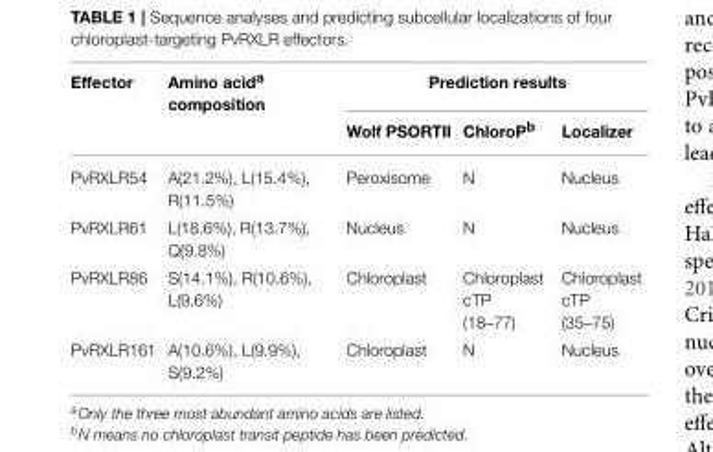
<table><thead><tr><td rowspan="2">Effector</td><td rowspan="2">Amino acid<sup>a</sup> composition</td><td colspan="3">Prediction results</td></tr><tr><td>Wolf PSORTII</td><td>ChloroP<sup>b</sup></td><td>Localizer</td></tr></thead><tbody><tr><td>PvRXLR54</td><td>A(21.2%), L(15.4%), R(11.5%)</td><td>Peroxisome</td><td>N</td><td>Nucleus</td></tr><tr><td>PvRXLR61</td><td>L(18.6%), R(13.7%), Q(9.8%)</td><td>Nucleus</td><td>N</td><td>Nucleus</td></tr><tr><td>PvRXLR86</td><td>S(14.1%), R(10.6%), L(9.6%)</td><td>Chloroplast</td><td>Chloroplast cTP (18–77)</td><td>Chloroplast cTP (35–75)</td></tr><tr><td>PvRXLR161</td><td>A(10.6%), L(9.9%), S(9.2%)</td><td>Chloroplast</td><td>N</td><td>Nucleus</td></tr></tbody></table>